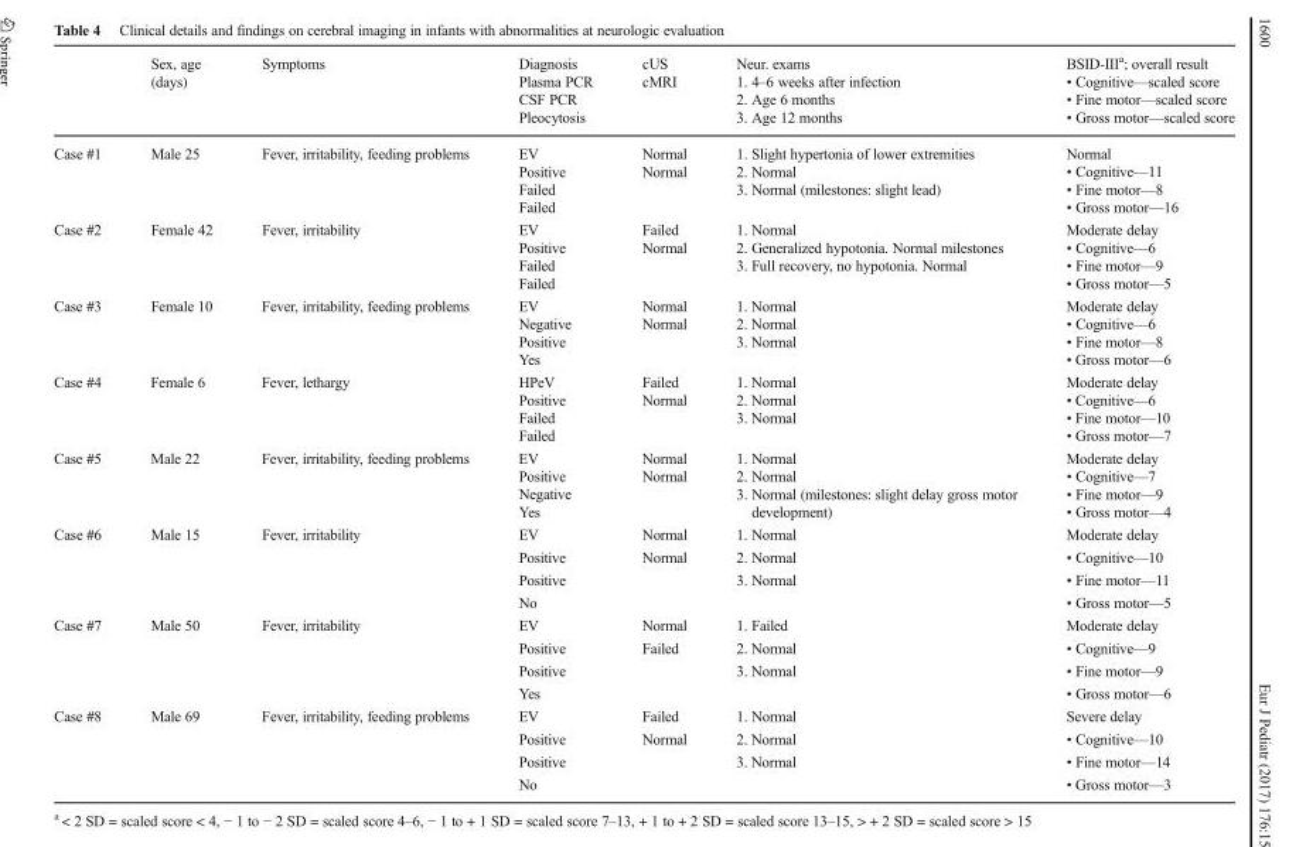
<table><thead><tr><td></td><td>Sex, age (days)</td><td>Symptoms</td><td>Diagnosis Plasma PCR CSF PCR Pleocytosis</td><td>cUS cMRI</td><td>Neur. exams 1. 4–6 weeks after infection 2. Age 6 months 3. Age 12 months</td><td>BSID-III<sup>a</sup>; overall result • Cognitive—scaled score • Fine motor—scaled score • Gross motor—scaled score</td></tr></thead><tbody><tr><td>Case #1</td><td>Male 25</td><td>Fever, irritability, feeding problems</td><td>EV Positive Failed Failed</td><td>Normal Normal</td><td>1. Slight hypertonia of lower extremities 2. Normal 3. Normal (milestones: slight lead)</td><td>Normal • Cognitive—11 • Fine motor—8 • Gross motor—16</td></tr><tr><td>Case #2</td><td>Female 42</td><td>Fever, irritability</td><td>EV Positive Failed Failed</td><td>Failed Normal</td><td>1. Normal 2. Generalized hypotonia. Normal milestones 3. Full recovery, no hypotonia. Normal</td><td>Moderate delay • Cognitive—6 • Fine motor—9 • Gross motor—5</td></tr><tr><td>Case #3</td><td>Female 10</td><td>Fever, irritability, feeding problems</td><td>EV Negative Positive Yes</td><td>Normal Normal</td><td>1. Normal 2. Normal 3. Normal</td><td>Moderate delay • Cognitive—6 • Fine motor—8 • Gross motor—6</td></tr><tr><td>Case #4</td><td>Female 6</td><td>Fever, lethargy</td><td>HPeV Positive Failed Failed</td><td>Failed Normal</td><td>1. Normal 2. Normal 3. Normal</td><td>Moderate delay • Cognitive—6 • Fine motor—10 • Gross motor—7</td></tr><tr><td>Case #5</td><td>Male 22</td><td>Fever, irritability, feeding problems</td><td>EV Positive Negative Yes</td><td>Normal Normal</td><td>1. Normal 2. Normal 3. Normal (milestones: slight delay gross motor development)</td><td>Moderate delay • Cognitive—7 • Fine motor—9 • Gross motor—4</td></tr><tr><td rowspan="4">Case #6</td><td rowspan="4">Male 15</td><td rowspan="4">Fever, irritability</td><td>EV</td><td>Normal</td><td>1. Normal</td><td>Moderate delay</td></tr><tr><td>Positive</td><td>Normal</td><td>2. Normal</td><td>• Cognitive—10</td></tr><tr><td>Positive</td><td></td><td>3. Normal</td><td>• Fine motor—11</td></tr><tr><td>No</td><td></td><td></td><td>• Gross motor—5</td></tr><tr><td rowspan="4">Case #7</td><td rowspan="4">Male 50</td><td rowspan="4">Fever, irritability</td><td>EV</td><td>Normal</td><td>1. Failed</td><td>Moderate delay</td></tr><tr><td>Positive</td><td>Failed</td><td>2. Normal</td><td>• Cognitive—9</td></tr><tr><td>Positive</td><td></td><td>3. Normal</td><td>• Fine motor—9</td></tr><tr><td>Yes</td><td></td><td></td><td>• Gross motor—6</td></tr><tr><td rowspan="4">Case #8</td><td rowspan="4">Male 69</td><td rowspan="4">Fever, irritability, feeding problems</td><td>EV</td><td>Failed</td><td>1. Normal</td><td>Severe delay</td></tr><tr><td>Positive</td><td>Normal</td><td>2. Normal</td><td>• Cognitive—10</td></tr><tr><td>Positive</td><td></td><td>3. Normal</td><td>• Fine motor—14</td></tr><tr><td>No</td><td></td><td></td><td>• Gross motor—3</td></tr></tbody></table>